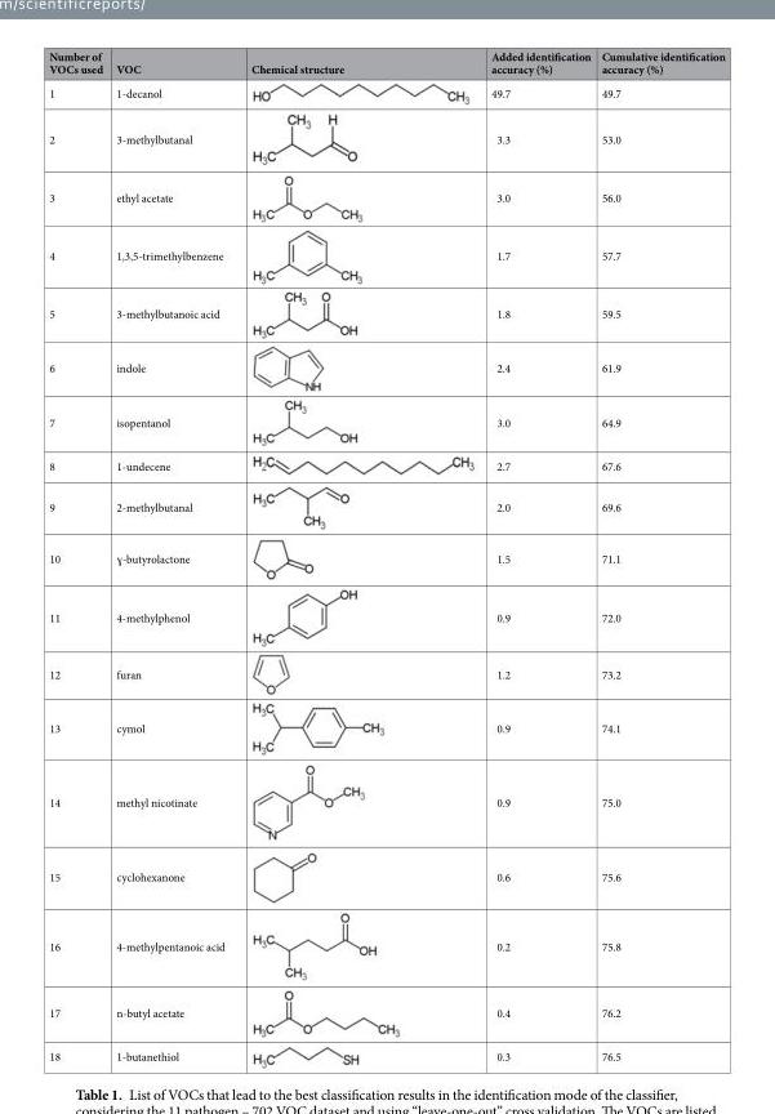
<table><thead><tr><td>Number of VOCs used</td><td>VOC</td><td>Chemical structure</td><td>Added identification accuracy (%)</td><td>Cumulative identification accuracy (%)</td></tr></thead><tbody><tr><td>1</td><td>1-decanol</td><td></td><td>49.7</td><td>49.7</td></tr><tr><td>2</td><td>3-methylbutanal</td><td></td><td>3.3</td><td>53.0</td></tr><tr><td>3</td><td>ethyl acetate</td><td></td><td>3.0</td><td>56.0</td></tr><tr><td>4</td><td>1,3,5-trimethylbenzene</td><td></td><td>1.7</td><td>57.7</td></tr><tr><td>5</td><td>3-methylbutanoic acid</td><td></td><td>1.8</td><td>59.5</td></tr><tr><td>6</td><td>indole</td><td></td><td>2.4</td><td>61.9</td></tr><tr><td>7</td><td>isopentanol</td><td></td><td>3.0</td><td>64.9</td></tr><tr><td>8</td><td>1-undecene</td><td></td><td>2.7</td><td>67.6</td></tr><tr><td>9</td><td>2-methylbutanal</td><td></td><td>2.0</td><td>69.6</td></tr><tr><td>10</td><td>ɣ-butyrolactone</td><td></td><td>1.5</td><td>71.1</td></tr><tr><td>11</td><td>4-methylphenol</td><td></td><td>0.9</td><td>72.0</td></tr><tr><td>12</td><td>furan</td><td></td><td>1.2</td><td>73.2</td></tr><tr><td>13</td><td>cymol</td><td></td><td>0.9</td><td>74.1</td></tr><tr><td>14</td><td>methyl nicotinate</td><td></td><td>0.9</td><td>75.0</td></tr><tr><td>15</td><td>cyclohexanone</td><td></td><td>0.6</td><td>75.6</td></tr><tr><td>16</td><td>4-methylpentanoic acid</td><td></td><td>0.2</td><td>75.8</td></tr><tr><td>17</td><td>n-butyl acetate</td><td></td><td>0.4</td><td>76.2</td></tr><tr><td>18</td><td>1-butanethiol</td><td></td><td>0.3</td><td>76.5</td></tr></tbody></table>